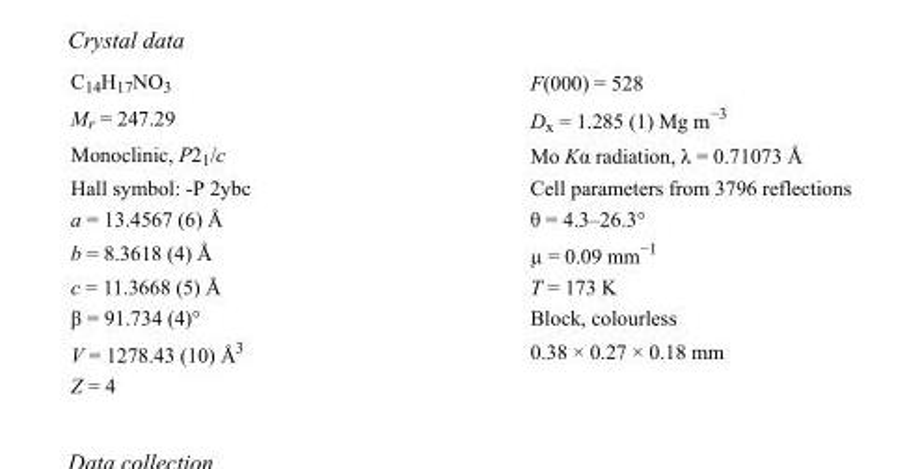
<table><tbody><tr><td>C<sub>14</sub>H<sub>17</sub>NO<sub>3</sub></td><td>F(000) = 528</td></tr><tr><td>M<sub>r</sub> = 247.29</td><td>D<sub>x</sub> = 1.285 (1) Mg m<sup>−3</sup></td></tr><tr><td>Monoclinic, P2<sub>1</sub>/c</td><td>Mo Kα radiation, λ = 0.71073 Å</td></tr><tr><td>Hall symbol: -P 2ybc</td><td>Cell parameters from 3796 reflections</td></tr><tr><td>a = 13.4567 (6) Å</td><td>θ = 4.3–26.3°</td></tr><tr><td>b = 8.3618 (4) Å</td><td>µ = 0.09 mm<sup>−1</sup></td></tr><tr><td>c = 11.3668 (5) Å</td><td>T = 173 K</td></tr><tr><td>β = 91.734 (4)°</td><td>Block, colourless</td></tr><tr><td>V = 1278.43 (10) Å<sup>3</sup></td><td>0.38 × 0.27 × 0.18 mm</td></tr><tr><td>Z = 4</td><td></td></tr></tbody></table>